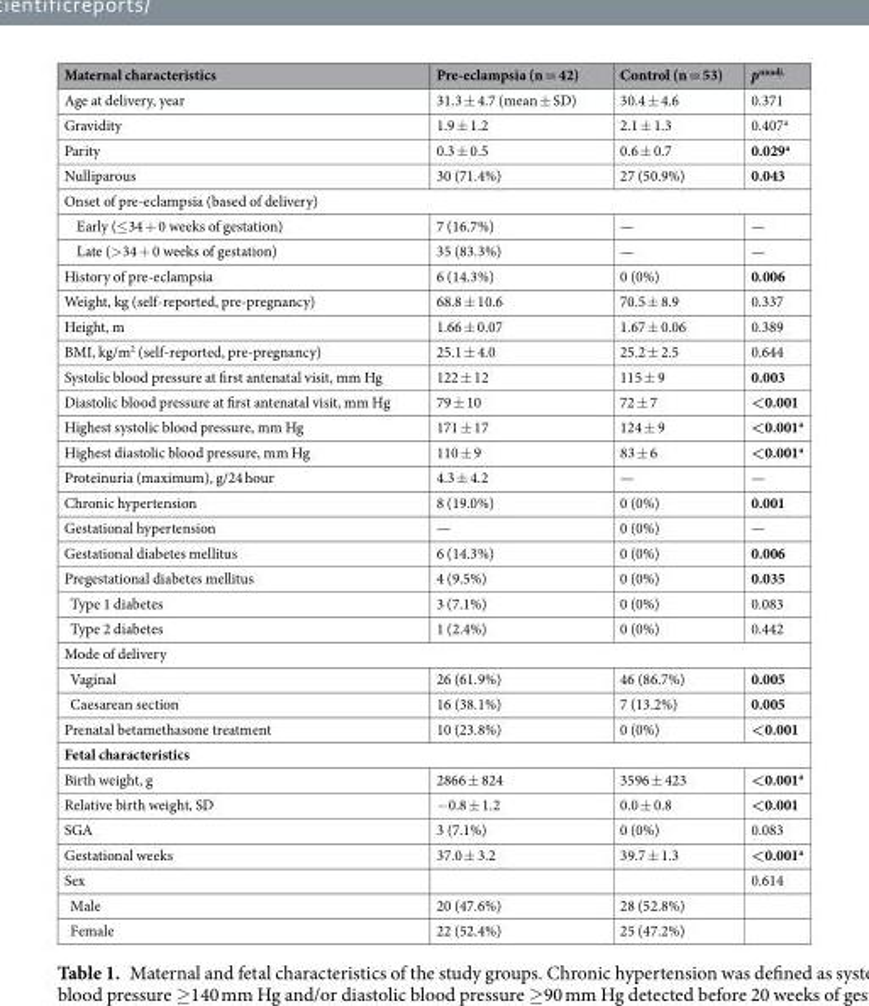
<table><thead><tr><td>Maternal characteristics</td><td>Pre-eclampsia (n = 42)</td><td>Control (n = 53)</td><td>p<sup>unadj.</sup></td></tr></thead><tbody><tr><td>Age at delivery, year</td><td>31.3 ± 4.7 (mean ± SD)</td><td>30.4 ± 4.6</td><td>0.371</td></tr><tr><td>Gravidity</td><td>1.9 ± 1.2</td><td>2.1 ± 1.3</td><td>0.407<sup>a</sup></td></tr><tr><td>Parity</td><td>0.3 ± 0.5</td><td>0.6 ± 0.7</td><td>0.029<sup>a</sup></td></tr><tr><td>Nulliparous</td><td>30 (71.4%)</td><td>27 (50.9%)</td><td>0.043</td></tr><tr><td colspan="4">Onset of pre-eclampsia (based of delivery)</td></tr><tr><td>Early (≤34 + 0 weeks of gestation)</td><td>7 (16.7%)</td><td>—</td><td>—</td></tr><tr><td>Late (&gt;34 + 0 weeks of gestation)</td><td>35 (83.3%)</td><td>—</td><td>—</td></tr><tr><td>History of pre-eclampsia</td><td>6 (14.3%)</td><td>0 (0%)</td><td>0.006</td></tr><tr><td>Weight, kg (self-reported, pre-pregnancy)</td><td>68.8 ± 10.6</td><td>70.5 ± 8.9</td><td>0.337</td></tr><tr><td>Height, m</td><td>1.66 ± 0.07</td><td>1.67 ± 0.06</td><td>0.389</td></tr><tr><td>BMI, kg/m<sup>2</sup> (self-reported, pre-pregnancy)</td><td>25.1 ± 4.0</td><td>25.2 ± 2.5</td><td>0.644</td></tr><tr><td>Systolic blood pressure at first antenatal visit, mm Hg</td><td>122 ± 12</td><td>115 ± 9</td><td>0.003</td></tr><tr><td>Diastolic blood pressure at first antenatal visit, mm Hg</td><td>79 ± 10</td><td>72 ± 7</td><td>&lt;0.001</td></tr><tr><td>Highest systolic blood pressure, mm Hg</td><td>171 ± 17</td><td>124 ± 9</td><td>&lt;0.001<sup>a</sup></td></tr><tr><td>Highest diastolic blood pressure, mm Hg</td><td>110 ± 9</td><td>83 ± 6</td><td>&lt;0.001<sup>a</sup></td></tr><tr><td>Proteinuria (maximum), g/24 hour</td><td>4.3 ± 4.2</td><td>—</td><td>—</td></tr><tr><td>Chronic hypertension</td><td>8 (19.0%)</td><td>0 (0%)</td><td>0.001</td></tr><tr><td>Gestational hypertension</td><td>—</td><td>0 (0%)</td><td>—</td></tr><tr><td>Gestational diabetes mellitus</td><td>6 (14.3%)</td><td>0 (0%)</td><td>0.006</td></tr><tr><td>Pregestational diabetes mellitus</td><td>4 (9.5%)</td><td>0 (0%)</td><td>0.035</td></tr><tr><td>Type 1 diabetes</td><td>3 (7.1%)</td><td>0 (0%)</td><td>0.083</td></tr><tr><td>Type 2 diabetes</td><td>1 (2.4%)</td><td>0 (0%)</td><td>0.442</td></tr><tr><td colspan="4">Mode of delivery</td></tr><tr><td>Vaginal</td><td>26 (61.9%)</td><td>46 (86.7%)</td><td>0.005</td></tr><tr><td>Caesarean section</td><td>16 (38.1%)</td><td>7 (13.2%)</td><td>0.005</td></tr><tr><td>Prenatal betamethasone treatment</td><td>10 (23.8%)</td><td>0 (0%)</td><td>&lt;0.001</td></tr><tr><td colspan="4">Fetal characteristics</td></tr><tr><td>Birth weight, g</td><td>2866 ± 824</td><td>3596 ± 423</td><td>&lt;0.001<sup>a</sup></td></tr><tr><td>Relative birth weight, SD</td><td>−0.8 ± 1.2</td><td>0.0 ± 0.8</td><td>&lt;0.001</td></tr><tr><td>SGA</td><td>3 (7.1%)</td><td>0 (0%)</td><td>0.083</td></tr><tr><td>Gestational weeks</td><td>37.0 ± 3.2</td><td>39.7 ± 1.3</td><td>&lt;0.001<sup>a</sup></td></tr><tr><td>Sex</td><td></td><td></td><td>0.614</td></tr><tr><td>Male</td><td>20 (47.6%)</td><td>28 (52.8%)</td><td></td></tr><tr><td>Female</td><td>22 (52.4%)</td><td>25 (47.2%)</td><td></td></tr></tbody></table>